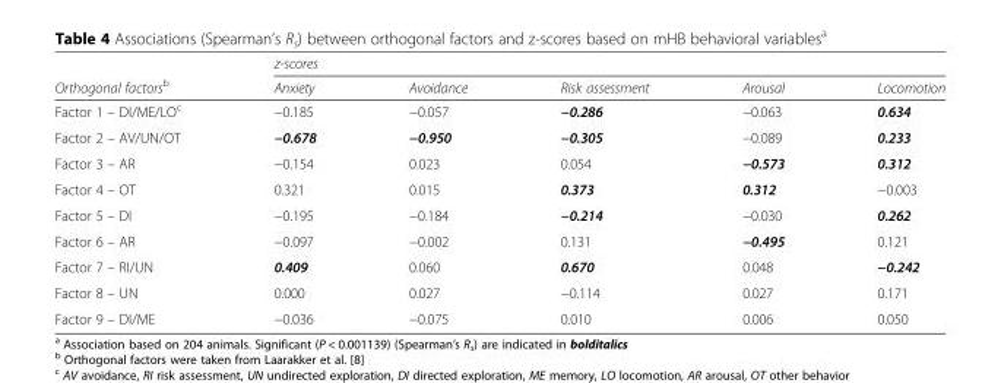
<table><thead><tr><td rowspan="2">Orthogonal factors<sup>b</sup></td><td colspan="5">z-scores</td></tr><tr><td>Anxiety</td><td>Avoidance</td><td>Risk assessment</td><td>Arousal</td><td>Locomotion</td></tr></thead><tbody><tr><td>Factor 1 – DI/ME/LO<sup>c</sup></td><td>−0.185</td><td>−0.057</td><td>−0.286</td><td>−0.063</td><td>0.634</td></tr><tr><td>Factor 2 – AV/UN/OT</td><td>−0.678</td><td>−0.950</td><td>−0.305</td><td>−0.089</td><td>0.233</td></tr><tr><td>Factor 3 – AR</td><td>−0.154</td><td>0.023</td><td>0.054</td><td>−0.573</td><td>0.312</td></tr><tr><td>Factor 4 – OT</td><td>0.321</td><td>0.015</td><td>0.373</td><td>0.312</td><td>−0.003</td></tr><tr><td>Factor 5 – DI</td><td>−0.195</td><td>−0.184</td><td>−0.214</td><td>−0.030</td><td>0.262</td></tr><tr><td>Factor 6 – AR</td><td>−0.097</td><td>−0.002</td><td>0.131</td><td>−0.495</td><td>0.121</td></tr><tr><td>Factor 7 – RI/UN</td><td>0.409</td><td>0.060</td><td>0.670</td><td>0.048</td><td>−0.242</td></tr><tr><td>Factor 8 – UN</td><td>0.000</td><td>0.027</td><td>−0.114</td><td>0.027</td><td>0.171</td></tr><tr><td>Factor 9 – DI/ME</td><td>−0.036</td><td>−0.075</td><td>0.010</td><td>0.006</td><td>0.050</td></tr></tbody></table>